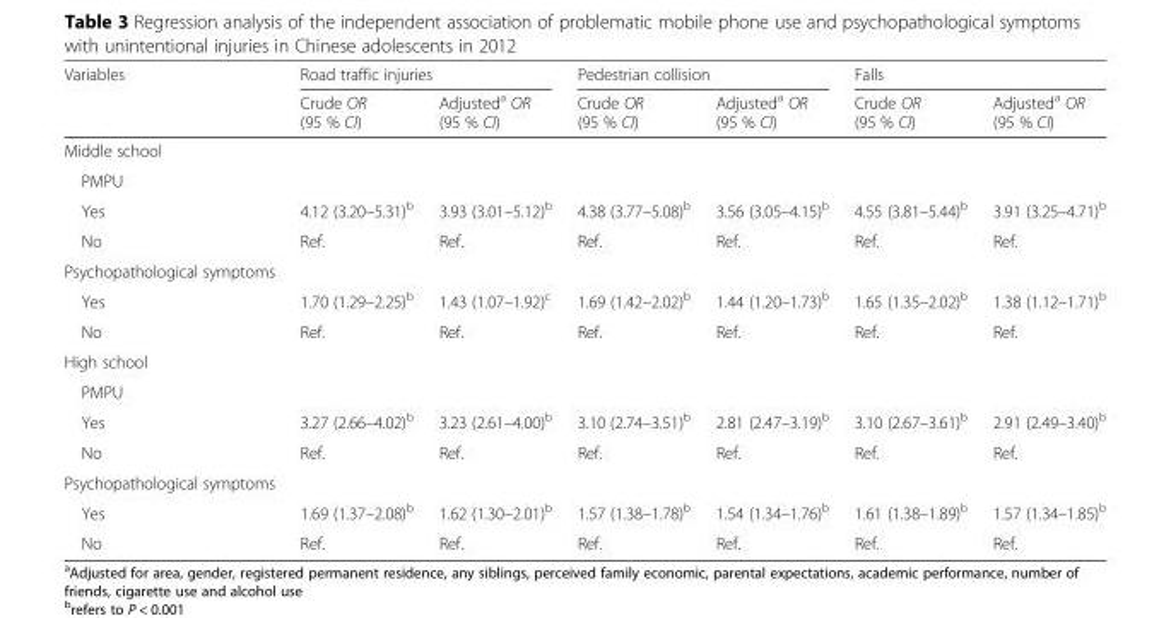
<table><thead><tr><td rowspan="2">Variables</td><td colspan="2">Road traffic injuries</td><td colspan="2">Pedestrian collision</td><td colspan="2">Falls</td></tr><tr><td>Crude OR (95 % CI)</td><td>Adjusted<sup>a</sup> OR (95 % CI)</td><td>Crude OR (95 % CI)</td><td>Adjusted<sup>a</sup> OR (95 % CI)</td><td>Crude OR (95 % CI)</td><td>Adjusted<sup>a</sup> OR (95 % CI)</td></tr></thead><tbody><tr><td colspan="7">Middle school</td></tr><tr><td colspan="7">PMPU</td></tr><tr><td>Yes</td><td>4.12 (3.20–5.31)<sup>b</sup></td><td>3.93 (3.01–5.12)<sup>b</sup></td><td>4.38 (3.77–5.08)<sup>b</sup></td><td>3.56 (3.05–4.15)<sup>b</sup></td><td>4.55 (3.81–5.44)<sup>b</sup></td><td>3.91 (3.25–4.71)<sup>b</sup></td></tr><tr><td>No</td><td>Ref.</td><td>Ref.</td><td>Ref.</td><td>Ref.</td><td>Ref.</td><td>Ref.</td></tr><tr><td colspan="7">Psychopathological symptoms</td></tr><tr><td>Yes</td><td>1.70 (1.29–2.25)<sup>b</sup></td><td>1.43 (1.07–1.92)<sup>c</sup></td><td>1.69 (1.42–2.02)<sup>b</sup></td><td>1.44 (1.20–1.73)<sup>b</sup></td><td>1.65 (1.35–2.02)<sup>b</sup></td><td>1.38 (1.12–1.71)<sup>b</sup></td></tr><tr><td>No</td><td>Ref.</td><td>Ref.</td><td>Ref.</td><td>Ref.</td><td>Ref.</td><td>Ref.</td></tr><tr><td colspan="7">High school</td></tr><tr><td colspan="7">PMPU</td></tr><tr><td>Yes</td><td>3.27 (2.66–4.02)<sup>b</sup></td><td>3.23 (2.61–4.00)<sup>b</sup></td><td>3.10 (2.74–3.51)<sup>b</sup></td><td>2.81 (2.47–3.19)<sup>b</sup></td><td>3.10 (2.67–3.61)<sup>b</sup></td><td>2.91 (2.49–3.40)<sup>b</sup></td></tr><tr><td>No</td><td>Ref.</td><td>Ref.</td><td>Ref.</td><td>Ref.</td><td>Ref.</td><td>Ref.</td></tr><tr><td colspan="7">Psychopathological symptoms</td></tr><tr><td>Yes</td><td>1.69 (1.37–2.08)<sup>b</sup></td><td>1.62 (1.30–2.01)<sup>b</sup></td><td>1.57 (1.38–1.78)<sup>b</sup></td><td>1.54 (1.34–1.76)<sup>b</sup></td><td>1.61 (1.38–1.89)<sup>b</sup></td><td>1.57 (1.34–1.85)<sup>b</sup></td></tr><tr><td>No</td><td>Ref.</td><td>Ref.</td><td>Ref.</td><td>Ref.</td><td>Ref.</td><td>Ref.</td></tr></tbody></table>